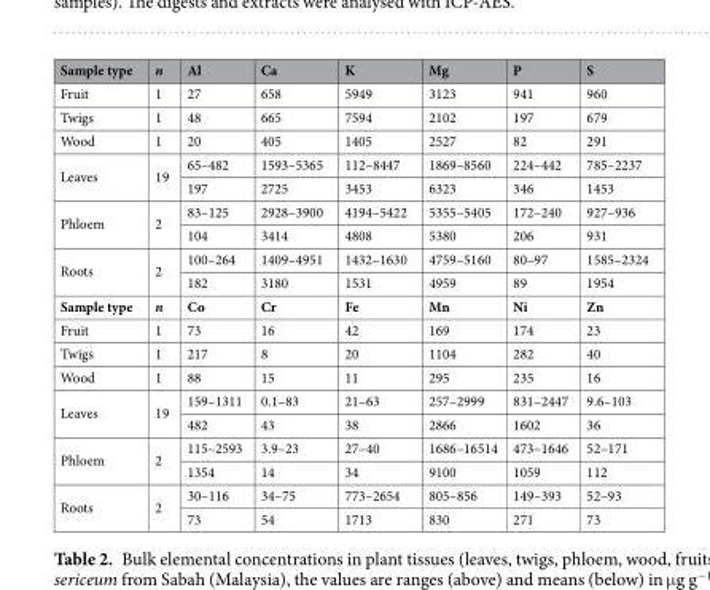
<table><thead><tr><td>Sample type</td><td>n</td><td>Al</td><td>Ca</td><td>K</td><td>Mg</td><td>P</td><td>S</td></tr></thead><tbody><tr><td>Fruit</td><td>1</td><td>27</td><td>658</td><td>5949</td><td>3123</td><td>941</td><td>960</td></tr><tr><td>Twigs</td><td>1</td><td>48</td><td>665</td><td>7594</td><td>2102</td><td>197</td><td>679</td></tr><tr><td>Wood</td><td>1</td><td>20</td><td>405</td><td>1405</td><td>2527</td><td>82</td><td>291</td></tr><tr><td rowspan="2">Leaves</td><td rowspan="2">19</td><td>65–482</td><td>1593–5365</td><td>112–8447</td><td>1869–8560</td><td>224–442</td><td>785–2237</td></tr><tr><td>197</td><td>2725</td><td>3453</td><td>6323</td><td>346</td><td>1453</td></tr><tr><td rowspan="2">Phloem</td><td rowspan="2">2</td><td>83–125</td><td>2928–3900</td><td>4194–5422</td><td>5355–5405</td><td>172–240</td><td>927–936</td></tr><tr><td>104</td><td>3414</td><td>4808</td><td>5380</td><td>206</td><td>931</td></tr><tr><td rowspan="2">Roots</td><td rowspan="2">2</td><td>100–264</td><td>1409–4951</td><td>1432–1630</td><td>4759–5160</td><td>80–97</td><td>1585–2324</td></tr><tr><td>182</td><td>3180</td><td>1531</td><td>4959</td><td>89</td><td>1954</td></tr><tr><td>Sample type</td><td>n</td><td>Co</td><td>Cr</td><td>Fe</td><td>Mn</td><td>Ni</td><td>Zn</td></tr><tr><td>Fruit</td><td>1</td><td>73</td><td>16</td><td>42</td><td>169</td><td>174</td><td>23</td></tr><tr><td>Twigs</td><td>1</td><td>217</td><td>8</td><td>20</td><td>1104</td><td>282</td><td>40</td></tr><tr><td>Wood</td><td>1</td><td>88</td><td>15</td><td>11</td><td>295</td><td>235</td><td>16</td></tr><tr><td rowspan="2">Leaves</td><td rowspan="2">19</td><td>159–1311</td><td>0.1–83</td><td>21–63</td><td>257–2999</td><td>831–2447</td><td>9.6–103</td></tr><tr><td>482</td><td>43</td><td>38</td><td>2866</td><td>1602</td><td>36</td></tr><tr><td rowspan="2">Phloem</td><td rowspan="2">2</td><td>115–2593</td><td>3.9–23</td><td>27–40</td><td>1686–16514</td><td>473–1646</td><td>52–171</td></tr><tr><td>1354</td><td>14</td><td>34</td><td>9100</td><td>1059</td><td>112</td></tr><tr><td rowspan="2">Roots</td><td rowspan="2">2</td><td>30–116</td><td>34–75</td><td>773–2654</td><td>805–856</td><td>149–393</td><td>52–93</td></tr><tr><td>73</td><td>54</td><td>1713</td><td>830</td><td>271</td><td>73</td></tr></tbody></table>